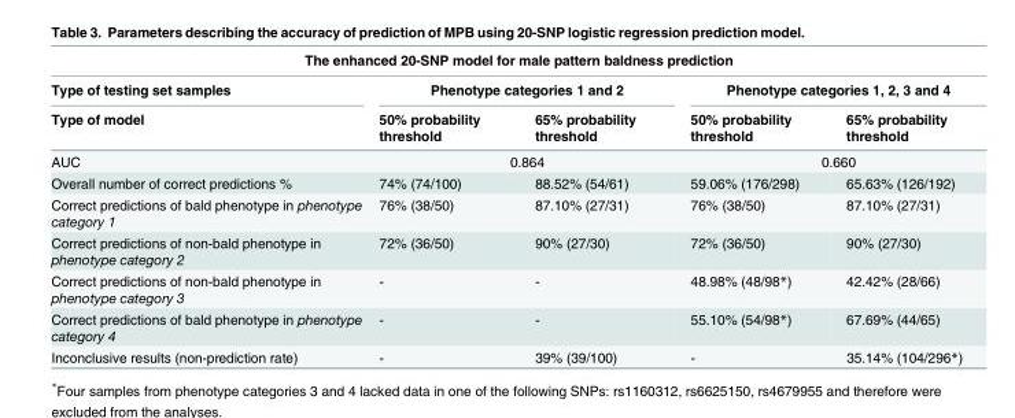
<table><thead><tr><td colspan="5">The enhanced 20-SNP model for male pattern baldness prediction</td></tr><tr><td rowspan="2">Type of testing set samples Type of model</td><td colspan="2">Phenotype categories 1 and 2</td><td colspan="2">Phenotype categories 1, 2, 3 and 4</td></tr><tr><td>50% probability threshold</td><td>65% probability threshold</td><td>50% probability threshold</td><td>65% probability threshold</td></tr></thead><tbody><tr><td>AUC</td><td colspan="2">0.864</td><td colspan="2">0.660</td></tr><tr><td>Overall number of correct predictions %</td><td>74% (74/100)</td><td>88.52% (54/61)</td><td>59.06% (176/298)</td><td>65.63% (126/192)</td></tr><tr><td>Correct predictions of bald phenotype in phenotype category 1</td><td>76% (38/50)</td><td>87.10% (27/31)</td><td>76% (38/50)</td><td>87.10% (27/31)</td></tr><tr><td>Correct predictions of non-bald phenotype in phenotype category 2</td><td>72% (36/50)</td><td>90% (27/30)</td><td>72% (36/50)</td><td>90% (27/30)</td></tr><tr><td>Correct predictions of non-bald phenotype in phenotype category 3</td><td>-</td><td>-</td><td>48.98% (48/98*)</td><td>42.42% (28/66)</td></tr><tr><td>Correct predictions of bald phenotype in phenotype category 4</td><td>-</td><td>-</td><td>55.10% (54/98*)</td><td>67.69% (44/65)</td></tr><tr><td>Inconclusive results (non-prediction rate)</td><td>-</td><td>39% (39/100)</td><td>-</td><td>35.14% (104/296*)</td></tr></tbody></table>